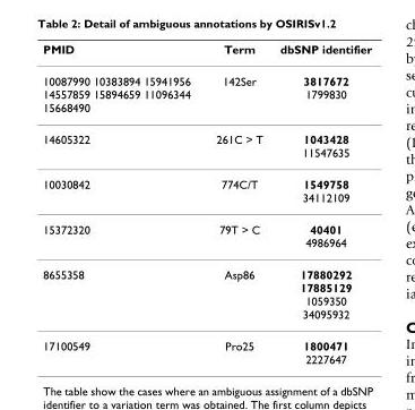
<table><thead><tr><td>PMID</td><td>Term</td><td>dbSNP identifier</td></tr></thead><tbody><tr><td>10087990 10383894 15941956 14557859 15894659 11096344 15668490</td><td>142Ser</td><td>3817672 1799830</td></tr><tr><td>14605322</td><td>261C &gt; T</td><td>1043428 11547635</td></tr><tr><td>10030842</td><td>774C/T</td><td>1549758 34112109</td></tr><tr><td>15372320</td><td>79T &gt; C</td><td>40401 4986964</td></tr><tr><td>8655358</td><td>Asp86</td><td>17880292 17885129 1059350 34095932</td></tr><tr><td>17100549</td><td>Pro25</td><td>1800471 2227647</td></tr></tbody></table>